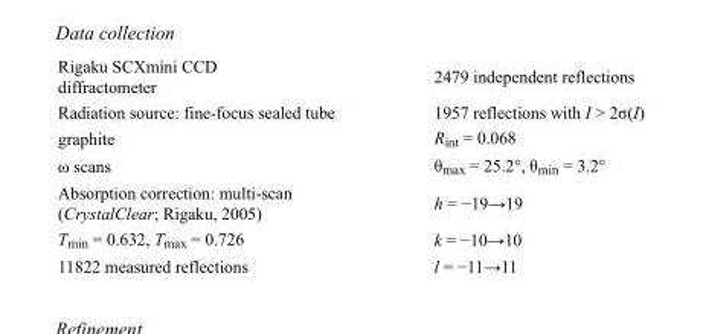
<table><tbody><tr><td>Rigaku SCXmini CCD diffractometer</td><td>2479 independent reflections</td></tr><tr><td>Radiation source: fine-focus sealed tube</td><td>1957 reflections with I &gt; 2σ(I)</td></tr><tr><td>graphite</td><td>R<sub>int</sub> = 0.068</td></tr><tr><td>ω scans</td><td>θ<sub>max</sub> = 25.2°, θ<sub>min</sub> = 3.2°</td></tr><tr><td>Absorption correction: multi-scan (CrystalClear; Rigaku, 2005)</td><td>h = −19→19</td></tr><tr><td>T<sub>min</sub> = 0.632, T<sub>max</sub> = 0.726</td><td>k = −10→10</td></tr><tr><td>11822 measured reflections</td><td>l = −11→11</td></tr></tbody></table>